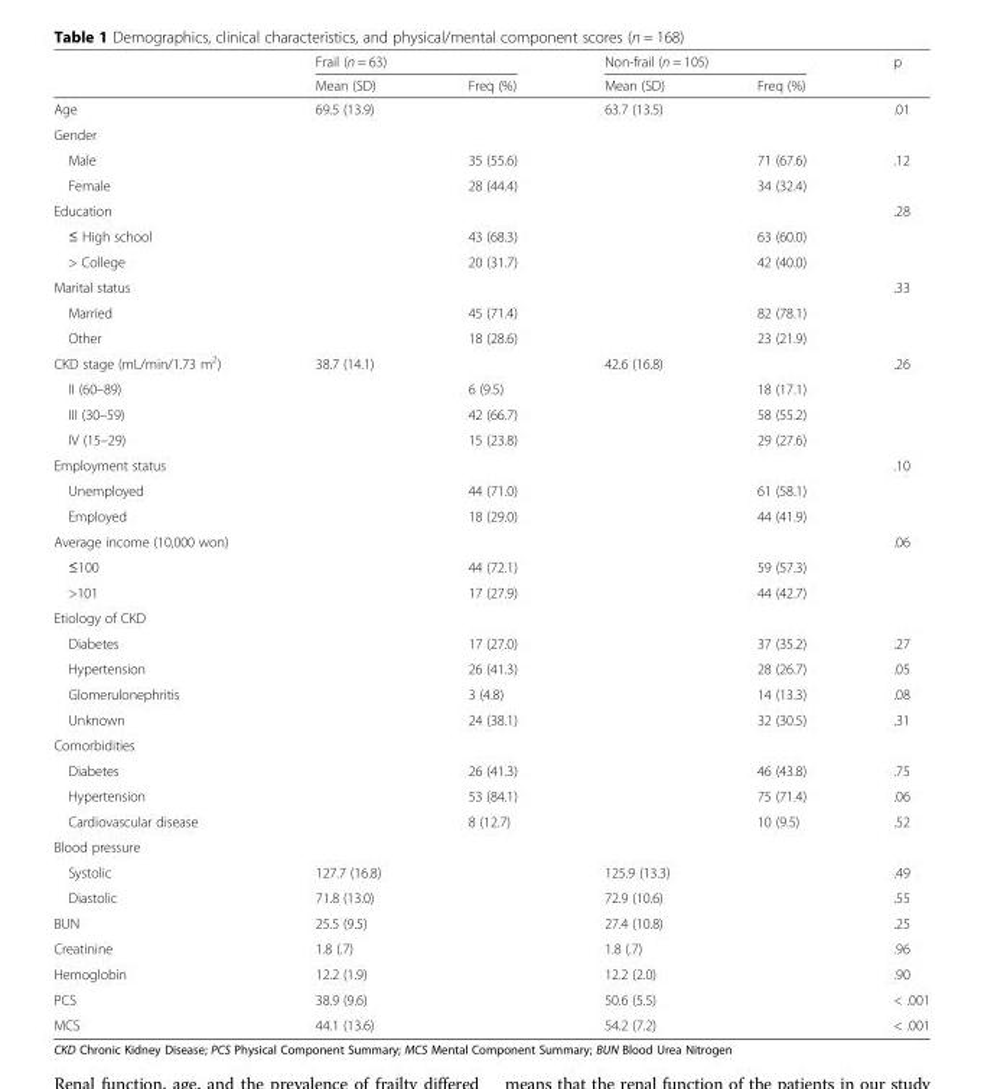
<table><thead><tr><td rowspan="2"></td><td colspan="2">Frail (n = 63)</td><td colspan="2">Non-frail (n = 105)</td><td rowspan="2">p</td></tr><tr><td>Mean (SD)</td><td>Freq (%)</td><td>Mean (SD)</td><td>Freq (%)</td></tr></thead><tbody><tr><td>Age</td><td>69.5 (13.9)</td><td></td><td>63.7 (13.5)</td><td></td><td>.01</td></tr><tr><td colspan="6">Gender</td></tr><tr><td>Male</td><td></td><td>35 (55.6)</td><td></td><td>71 (67.6)</td><td rowspan="2">.12</td></tr><tr><td>Female</td><td></td><td>28 (44.4)</td><td></td><td>34 (32.4)</td></tr><tr><td colspan="5">Education</td><td rowspan="3">.28</td></tr><tr><td>≤ High school</td><td></td><td>43 (68.3)</td><td></td><td>63 (60.0)</td></tr><tr><td>&gt; College</td><td></td><td>20 (31.7)</td><td></td><td>42 (40.0)</td></tr><tr><td colspan="5">Marital status</td><td rowspan="3">.33</td></tr><tr><td>Married</td><td></td><td>45 (71.4)</td><td></td><td>82 (78.1)</td></tr><tr><td>Other</td><td></td><td>18 (28.6)</td><td></td><td>23 (21.9)</td></tr><tr><td>CKD stage (mL/min/1.73 m<sup>2</sup>)</td><td>38.7 (14.1)</td><td></td><td>42.6 (16.8)</td><td></td><td rowspan="4">.26</td></tr><tr><td>II (60–89)</td><td></td><td>6 (9.5)</td><td></td><td>18 (17.1)</td></tr><tr><td>III (30–59)</td><td></td><td>42 (66.7)</td><td></td><td>58 (55.2)</td></tr><tr><td>IV (15–29)</td><td></td><td>15 (23.8)</td><td></td><td>29 (27.6)</td></tr><tr><td colspan="5">Employment status</td><td rowspan="3">.10</td></tr><tr><td>Unemployed</td><td></td><td>44 (71.0)</td><td></td><td>61 (58.1)</td></tr><tr><td>Employed</td><td></td><td>18 (29.0)</td><td></td><td>44 (41.9)</td></tr><tr><td colspan="5">Average income (10,000 won)</td><td rowspan="3">.06</td></tr><tr><td>≤100</td><td></td><td>44 (72.1)</td><td></td><td>59 (57.3)</td></tr><tr><td>&gt;101</td><td></td><td>17 (27.9)</td><td></td><td>44 (42.7)</td></tr><tr><td colspan="6">Etiology of CKD</td></tr><tr><td>Diabetes</td><td></td><td>17 (27.0)</td><td></td><td>37 (35.2)</td><td>.27</td></tr><tr><td>Hypertension</td><td></td><td>26 (41.3)</td><td></td><td>28 (26.7)</td><td>.05</td></tr><tr><td>Glomerulonephritis</td><td></td><td>3 (4.8)</td><td></td><td>14 (13.3)</td><td>.08</td></tr><tr><td>Unknown</td><td></td><td>24 (38.1)</td><td></td><td>32 (30.5)</td><td>.31</td></tr><tr><td colspan="6">Comorbidities</td></tr><tr><td>Diabetes</td><td></td><td>26 (41.3)</td><td></td><td>46 (43.8)</td><td>.75</td></tr><tr><td>Hypertension</td><td></td><td>53 (84.1)</td><td></td><td>75 (71.4)</td><td>.06</td></tr><tr><td>Cardiovascular disease</td><td></td><td>8 (12.7)</td><td></td><td>10 (9.5)</td><td>.52</td></tr><tr><td colspan="6">Blood pressure</td></tr><tr><td>Systolic</td><td>127.7 (16.8)</td><td></td><td>125.9 (13.3)</td><td></td><td>.49</td></tr><tr><td>Diastolic</td><td>71.8 (13.0)</td><td></td><td>72.9 (10.6)</td><td></td><td>.55</td></tr><tr><td>BUN</td><td>25.5 (9.5)</td><td></td><td>27.4 (10.8)</td><td></td><td>.25</td></tr><tr><td>Creatinine</td><td>1.8 (.7)</td><td></td><td>1.8 (.7)</td><td></td><td>.96</td></tr><tr><td>Hemoglobin</td><td>12.2 (1.9)</td><td></td><td>12.2 (2.0)</td><td></td><td>.90</td></tr><tr><td>PCS</td><td>38.9 (9.6)</td><td></td><td>50.6 (5.5)</td><td></td><td>&lt; .001</td></tr><tr><td>MCS</td><td>44.1 (13.6)</td><td></td><td>54.2 (7.2)</td><td></td><td>&lt; .001</td></tr></tbody></table>